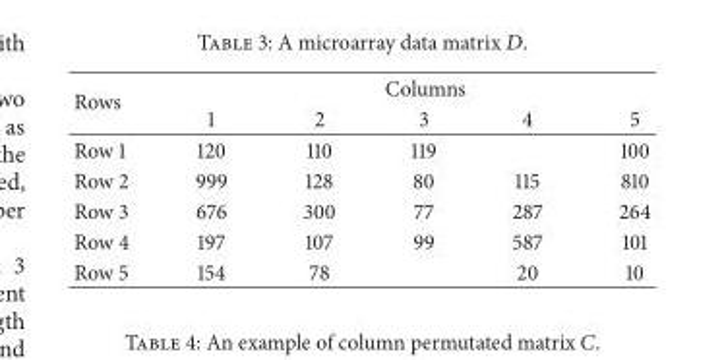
<table><thead><tr><td rowspan="2">Rows</td><td colspan="5">Columns</td></tr><tr><td>1</td><td>2</td><td>3</td><td>4</td><td>5</td></tr></thead><tbody><tr><td>Row 1</td><td>120</td><td>110</td><td>119</td><td></td><td>100</td></tr><tr><td>Row 2</td><td>999</td><td>128</td><td>80</td><td>115</td><td>810</td></tr><tr><td>Row 3</td><td>676</td><td>300</td><td>77</td><td>287</td><td>264</td></tr><tr><td>Row 4</td><td>197</td><td>107</td><td>99</td><td>587</td><td>101</td></tr><tr><td>Row 5</td><td>154</td><td>78</td><td></td><td>20</td><td>10</td></tr></tbody></table>